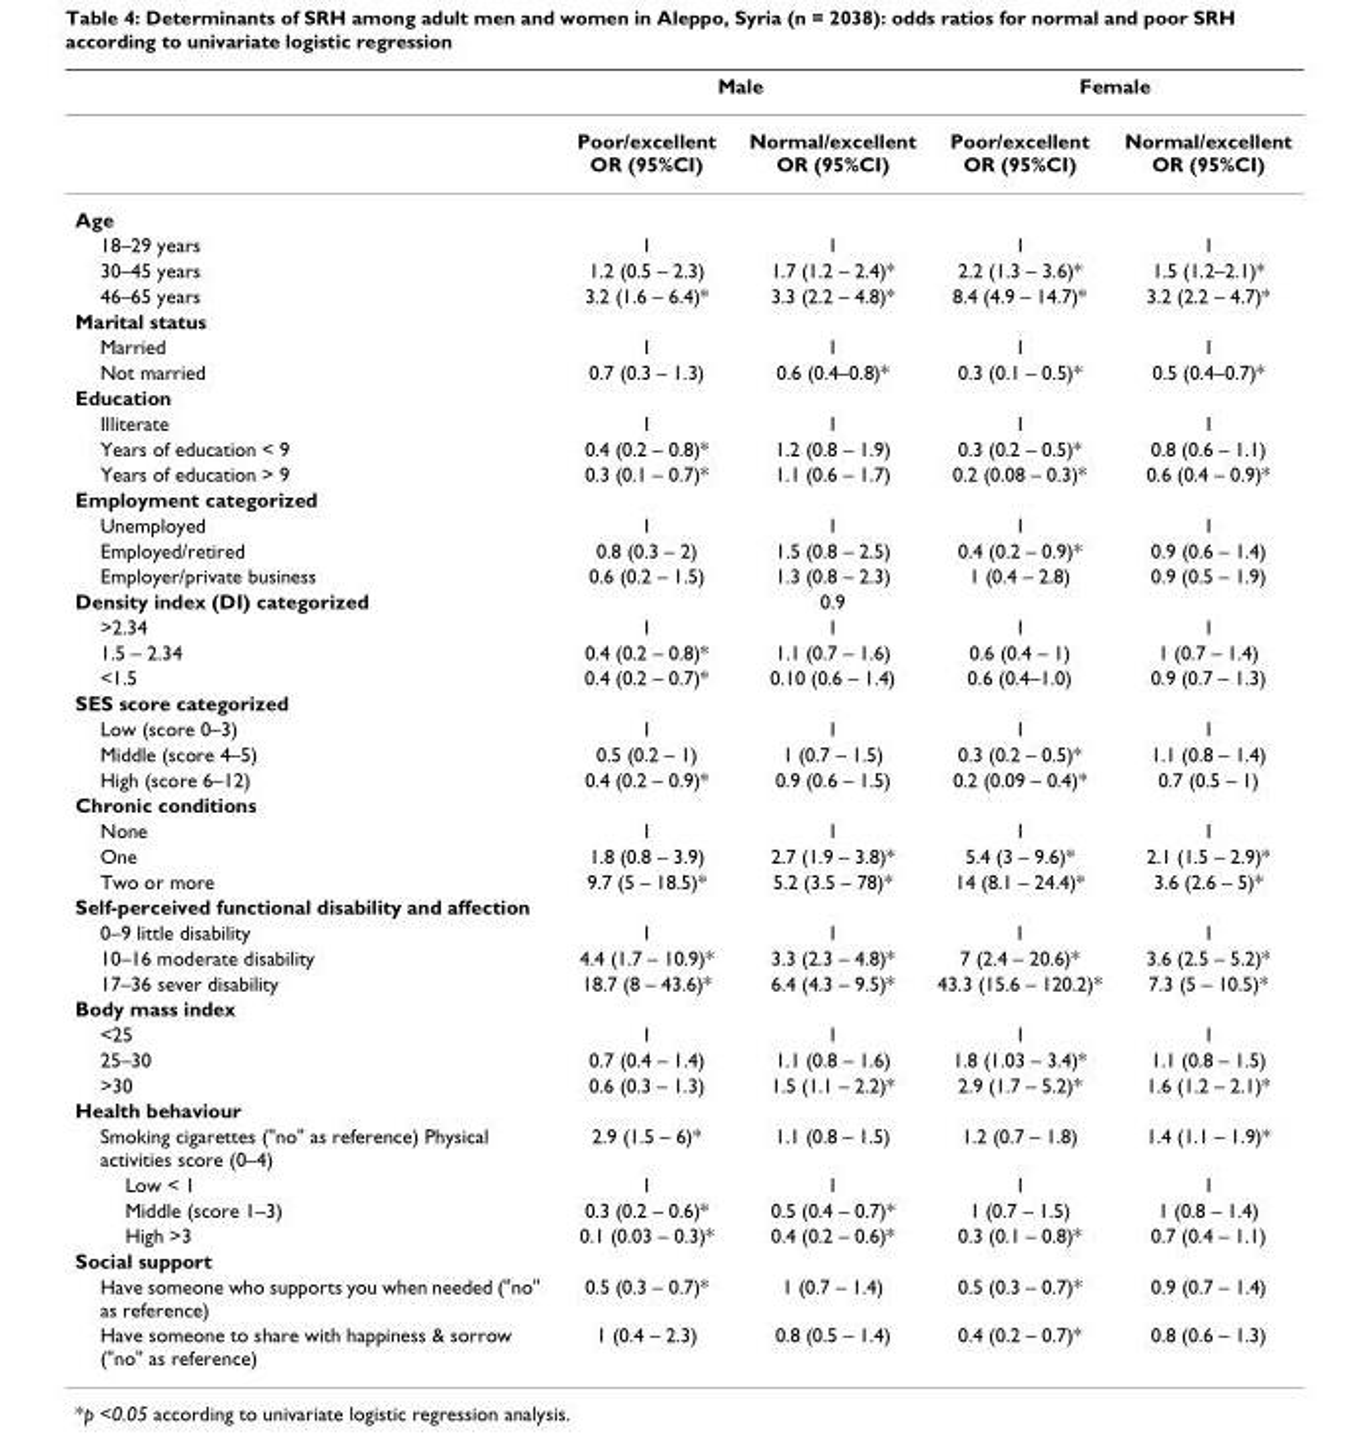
<table><thead><tr><td rowspan="2"></td><td colspan="2">Male</td><td colspan="2">Female</td></tr><tr><td>Poor/excellent OR (95%CI)</td><td>Normal/excellent OR (95%CI)</td><td>Poor/excellent OR (95%CI)</td><td>Normal/excellent OR (95%CI)</td></tr></thead><tbody><tr><td colspan="5">Age</td></tr><tr><td>18–29 years</td><td>1</td><td>1</td><td>1</td><td>1</td></tr><tr><td>30–45 years</td><td>1.2 (0.5 – 2.3)</td><td>1.7 (1.2 – 2.4)*</td><td>2.2 (1.3 – 3.6)*</td><td>1.5 (1.2–2.1)*</td></tr><tr><td>46–65 years</td><td>3.2 (1.6 – 6.4)*</td><td>3.3 (2.2 – 4.8)*</td><td>8.4 (4.9 – 14.7)*</td><td>3.2 (2.2 – 4.7)*</td></tr><tr><td colspan="5">Marital status</td></tr><tr><td>Married</td><td>1</td><td>1</td><td>1</td><td>1</td></tr><tr><td>Not married</td><td>0.7 (0.3 – 1.3)</td><td>0.6 (0.4–0.8)*</td><td>0.3 (0.1 – 0.5)*</td><td>0.5 (0.4–0.7)*</td></tr><tr><td colspan="5">Education</td></tr><tr><td>Illiterate</td><td>1</td><td>1</td><td>1</td><td>1</td></tr><tr><td>Years of education &lt; 9</td><td>0.4 (0.2 – 0.8)*</td><td>1.2 (0.8 – 1.9)</td><td>0.3 (0.2 – 0.5)*</td><td>0.8 (0.6 – 1.1)</td></tr><tr><td>Years of education &gt; 9</td><td>0.3 (0.1 – 0.7)*</td><td>1.1 (0.6 – 1.7)</td><td>0.2 (0.08 – 0.3)*</td><td>0.6 (0.4 – 0.9)*</td></tr><tr><td colspan="5">Employment categorized</td></tr><tr><td>Unemployed</td><td>1</td><td>1</td><td>1</td><td>1</td></tr><tr><td>Employed/retired</td><td>0.8 (0.3 – 2)</td><td>1.5 (0.8 – 2.5)</td><td>0.4 (0.2 – 0.9)*</td><td>0.9 (0.6 – 1.4)</td></tr><tr><td>Employer/private business</td><td>0.6 (0.2 – 1.5)</td><td>1.3 (0.8 – 2.3)</td><td>1 (0.4 – 2.8)</td><td>0.9 (0.5 – 1.9)</td></tr><tr><td>Density index (DI) categorized</td><td></td><td>0.9</td><td></td><td></td></tr><tr><td>&gt;2.34</td><td>1</td><td>1</td><td>1</td><td>1</td></tr><tr><td>1.5 – 2.34</td><td>0.4 (0.2 – 0.8)*</td><td>1.1 (0.7 – 1.6)</td><td>0.6 (0.4 – 1)</td><td>1 (0.7 – 1.4)</td></tr><tr><td>&lt;1.5</td><td>0.4 (0.2 – 0.7)*</td><td>0.10 (0.6 – 1.4)</td><td>0.6 (0.4–1.0)</td><td>0.9 (0.7 – 1.3)</td></tr><tr><td colspan="5">SES score categorized</td></tr><tr><td>Low (score 0–3)</td><td>1</td><td>1</td><td>1</td><td>1</td></tr><tr><td>Middle (score 4–5)</td><td>0.5 (0.2 – 1)</td><td>1 (0.7 – 1.5)</td><td>0.3 (0.2 – 0.5)*</td><td>1.1 (0.8 – 1.4)</td></tr><tr><td>High (score 6–12)</td><td>0.4 (0.2 – 0.9)*</td><td>0.9 (0.6 – 1.5)</td><td>0.2 (0.09 – 0.4)*</td><td>0.7 (0.5 – 1)</td></tr><tr><td colspan="5">Chronic conditions</td></tr><tr><td>None</td><td>1</td><td>1</td><td>1</td><td>1</td></tr><tr><td>One</td><td>1.8 (0.8 – 3.9)</td><td>2.7 (1.9 – 3.8)*</td><td>5.4 (3 – 9.6)*</td><td>2.1 (1.5 – 2.9)*</td></tr><tr><td>Two or more</td><td>9.7 (5 – 18.5)*</td><td>5.2 (3.5 – 78)*</td><td>14 (8.1 – 24.4)*</td><td>3.6 (2.6 – 5)*</td></tr><tr><td colspan="5">Self-perceived functional disability and affection</td></tr><tr><td>0–9 little disability</td><td>1</td><td>1</td><td>1</td><td>1</td></tr><tr><td>10–16 moderate disability</td><td>4.4 (1.7 – 10.9)*</td><td>3.3 (2.3 – 4.8)*</td><td>7 (2.4 – 20.6)*</td><td>3.6 (2.5 – 5.2)*</td></tr><tr><td>17–36 sever disability</td><td>18.7 (8 – 43.6)*</td><td>6.4 (4.3 – 9.5)*</td><td>43.3 (15.6 – 120.2)*</td><td>7.3 (5 – 10.5)*</td></tr><tr><td colspan="5">Body mass index</td></tr><tr><td>&lt;25</td><td>1</td><td>1</td><td>1</td><td>1</td></tr><tr><td>25–30</td><td>0.7 (0.4 – 1.4)</td><td>1.1 (0.8 – 1.6)</td><td>1.8 (1.03 – 3.4)*</td><td>1.1 (0.8 – 1.5)</td></tr><tr><td>&gt;30</td><td>0.6 (0.3 – 1.3)</td><td>1.5 (1.1 – 2.2)*</td><td>2.9 (1.7 – 5.2)*</td><td>1.6 (1.2 – 2.1)*</td></tr><tr><td colspan="5">Health behaviour</td></tr><tr><td>Smoking cigarettes (&quot;no&quot; as reference) Physical activities score (0–4)</td><td>2.9 (1.5 – 6)*</td><td>1.1 (0.8 – 1.5)</td><td>1.2 (0.7 – 1.8)</td><td>1.4 (1.1 – 1.9)*</td></tr><tr><td>Low &lt; 1</td><td>1</td><td>1</td><td>1</td><td>1</td></tr><tr><td>Middle (score 1–3)</td><td>0.3 (0.2 – 0.6)*</td><td>0.5 (0.4 – 0.7)*</td><td>1 (0.7 – 1.5)</td><td>1 (0.8 – 1.4)</td></tr><tr><td>High &gt;3</td><td>0.1 (0.03 – 0.3)*</td><td>0.4 (0.2 – 0.6)*</td><td>0.3 (0.1 – 0.8)*</td><td>0.7 (0.4 – 1.1)</td></tr><tr><td colspan="5">Social support</td></tr><tr><td>Have someone who supports you when needed (&quot;no&quot; as reference)</td><td>0.5 (0.3 – 0.7)*</td><td>1 (0.7 – 1.4)</td><td>0.5 (0.3 – 0.7)*</td><td>0.9 (0.7 – 1.4)</td></tr><tr><td>Have someone to share with happiness &amp; sorrow (&quot;no&quot; as reference)</td><td>1 (0.4 – 2.3)</td><td>0.8 (0.5 – 1.4)</td><td>0.4 (0.2 – 0.7)*</td><td>0.8 (0.6 – 1.3)</td></tr></tbody></table>